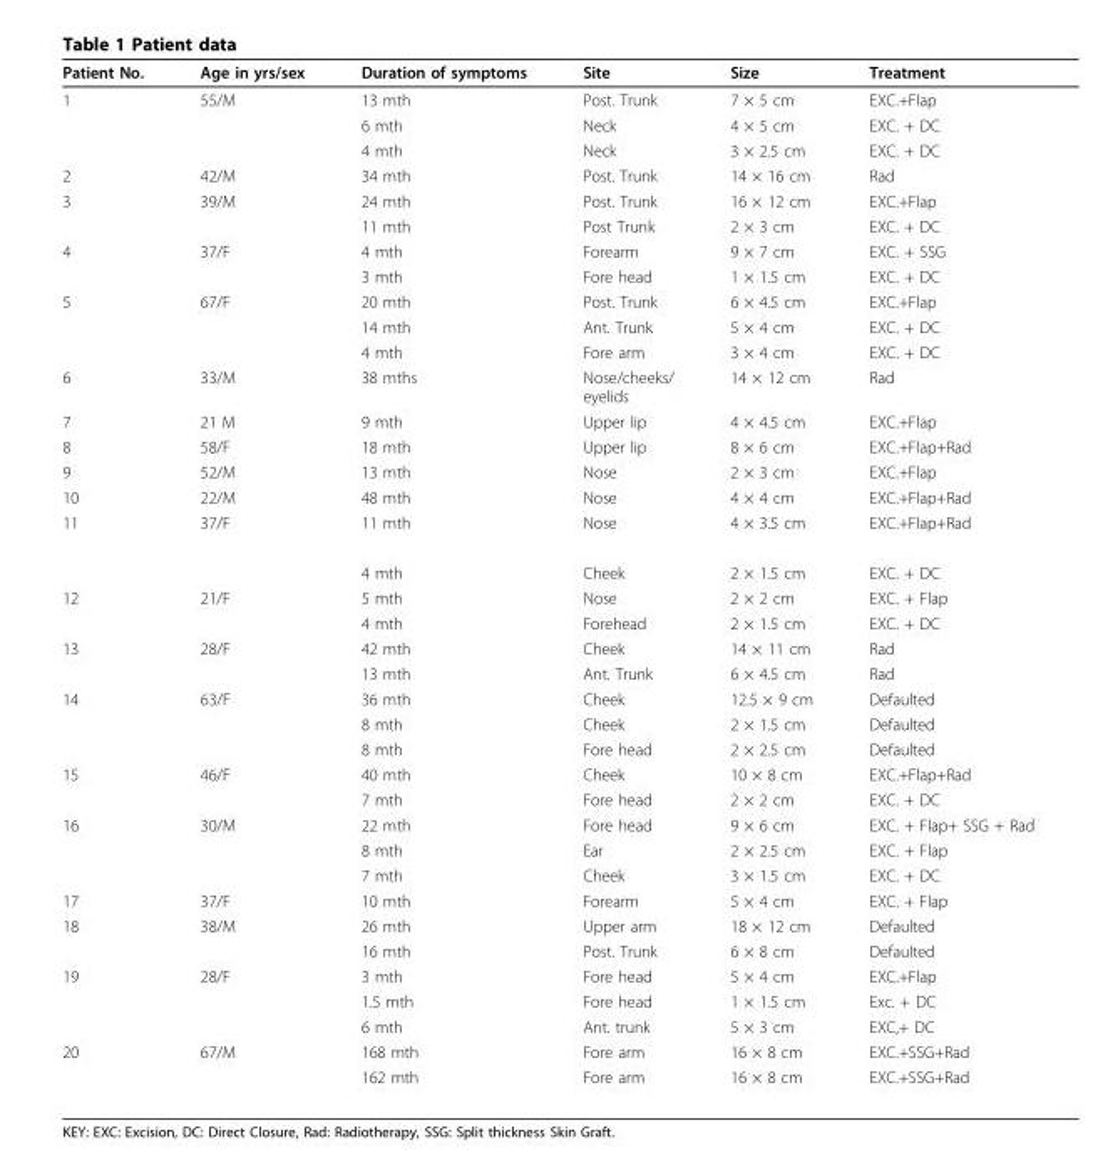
<table><thead><tr><td>Patient No.</td><td>Age in yrs/sex</td><td>Duration of symptoms</td><td>Site</td><td>Size</td><td>Treatment</td></tr></thead><tbody><tr><td rowspan="3">1</td><td>55/M</td><td>13 mth</td><td>Post. Trunk</td><td>7 × 5 cm</td><td>EXC.+Flap</td></tr><tr><td></td><td>6 mth</td><td>Neck</td><td>4 × 5 cm</td><td>EXC. + DC</td></tr><tr><td></td><td>4 mth</td><td>Neck</td><td>3 × 2.5 cm</td><td>EXC. + DC</td></tr><tr><td>2</td><td>42/M</td><td>34 mth</td><td>Post. Trunk</td><td>14 × 16 cm</td><td>Rad</td></tr><tr><td rowspan="2">3</td><td>39/M</td><td>24 mth</td><td>Post. Trunk</td><td>16 × 12 cm</td><td>EXC.+Flap</td></tr><tr><td></td><td>11 mth</td><td>Post Trunk</td><td>2 × 3 cm</td><td>EXC. + DC</td></tr><tr><td rowspan="2">4</td><td>37/F</td><td>4 mth</td><td>Forearm</td><td>9 × 7 cm</td><td>EXC. + SSG</td></tr><tr><td></td><td>3 mth</td><td>Fore head</td><td>1 × 1.5 cm</td><td>EXC. + DC</td></tr><tr><td rowspan="3">5</td><td>67/F</td><td>20 mth</td><td>Post. Trunk</td><td>6 × 4.5 cm</td><td>EXC.+Flap</td></tr><tr><td></td><td>14 mth</td><td>Ant. Trunk</td><td>5 × 4 cm</td><td>EXC. + DC</td></tr><tr><td></td><td>4 mth</td><td>Fore arm</td><td>3 × 4 cm</td><td>EXC. + DC</td></tr><tr><td>6</td><td>33/M</td><td>38 mths</td><td>Nose/cheeks/ eyelids</td><td>14 × 12 cm</td><td>Rad</td></tr><tr><td>7</td><td>21 M</td><td>9 mth</td><td>Upper lip</td><td>4 × 4.5 cm</td><td>EXC.+Flap</td></tr><tr><td>8</td><td>58/F</td><td>18 mth</td><td>Upper lip</td><td>8 × 6 cm</td><td>EXC.+Flap+Rad</td></tr><tr><td>9</td><td>52/M</td><td>13 mth</td><td>Nose</td><td>2 × 3 cm</td><td>EXC.+Flap</td></tr><tr><td>10</td><td>22/M</td><td>48 mth</td><td>Nose</td><td>4 × 4 cm</td><td>EXC.+Flap+Rad</td></tr><tr><td rowspan="2">11</td><td>37/F</td><td>11 mth</td><td>Nose</td><td>4 × 3.5 cm</td><td>EXC.+Flap+Rad</td></tr><tr><td></td><td>4 mth</td><td>Cheek</td><td>2 × 1.5 cm</td><td>EXC. + DC</td></tr><tr><td rowspan="2">12</td><td>21/F</td><td>5 mth</td><td>Nose</td><td>2 × 2 cm</td><td>EXC. + Flap</td></tr><tr><td></td><td>4 mth</td><td>Forehead</td><td>2 × 1.5 cm</td><td>EXC. + DC</td></tr><tr><td rowspan="2">13</td><td>28/F</td><td>42 mth</td><td>Cheek</td><td>14 × 11 cm</td><td>Rad</td></tr><tr><td></td><td>13 mth</td><td>Ant. Trunk</td><td>6 × 4.5 cm</td><td>Rad</td></tr><tr><td rowspan="3">14</td><td>63/F</td><td>36 mth</td><td>Cheek</td><td>12.5 × 9 cm</td><td>Defaulted</td></tr><tr><td></td><td>8 mth</td><td>Cheek</td><td>2 × 1.5 cm</td><td>Defaulted</td></tr><tr><td></td><td>8 mth</td><td>Fore head</td><td>2 × 2.5 cm</td><td>Defaulted</td></tr><tr><td rowspan="2">15</td><td>46/F</td><td>40 mth</td><td>Cheek</td><td>10 × 8 cm</td><td>EXC.+Flap+Rad</td></tr><tr><td></td><td>7 mth</td><td>Fore head</td><td>2 × 2 cm</td><td>EXC. + DC</td></tr><tr><td rowspan="3">16</td><td>30/M</td><td>22 mth</td><td>Fore head</td><td>9 × 6 cm</td><td>EXC. + Flap+ SSG + Rad</td></tr><tr><td></td><td>8 mth</td><td>Ear</td><td>2 × 2.5 cm</td><td>EXC. + Flap</td></tr><tr><td></td><td>7 mth</td><td>Cheek</td><td>3 × 1.5 cm</td><td>EXC. + DC</td></tr><tr><td>17</td><td>37/F</td><td>10 mth</td><td>Forearm</td><td>5 × 4 cm</td><td>EXC. + Flap</td></tr><tr><td rowspan="2">18</td><td>38/M</td><td>26 mth</td><td>Upper arm</td><td>18 × 12 cm</td><td>Defaulted</td></tr><tr><td></td><td>16 mth</td><td>Post. Trunk</td><td>6 × 8 cm</td><td>Defaulted</td></tr><tr><td rowspan="3">19</td><td>28/F</td><td>3 mth</td><td>Fore head</td><td>5 × 4 cm</td><td>EXC.+Flap</td></tr><tr><td></td><td>1.5 mth</td><td>Fore head</td><td>1 × 1.5 cm</td><td>Exc. + DC</td></tr><tr><td></td><td>6 mth</td><td>Ant. trunk</td><td>5 × 3 cm</td><td>EXC,+ DC</td></tr><tr><td rowspan="2">20</td><td>67/M</td><td>168 mth</td><td>Fore arm</td><td>16 × 8 cm</td><td>EXC.+SSG+Rad</td></tr><tr><td></td><td>162 mth</td><td>Fore arm</td><td>16 × 8 cm</td><td>EXC.+SSG+Rad</td></tr></tbody></table>